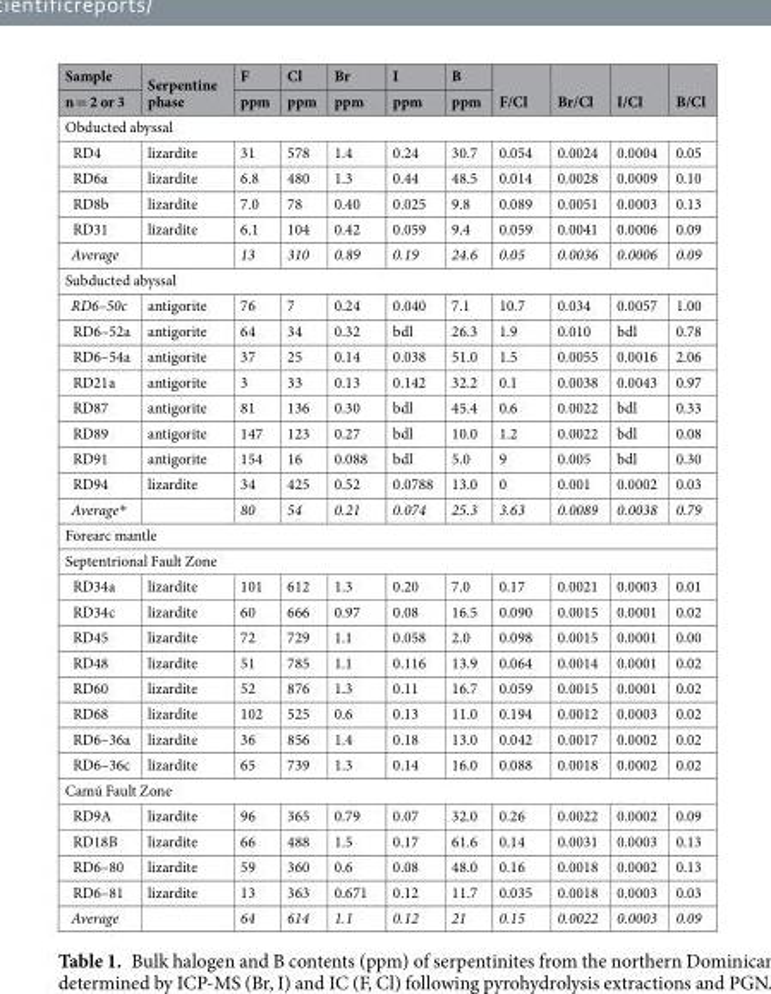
<table><thead><tr><td rowspan="2">Sample n = 2 or 3</td><td rowspan="2">Serpentine phase</td><td rowspan="2">F ppm</td><td rowspan="2">Cl ppm</td><td rowspan="2">Br ppm</td><td rowspan="2">I ppm</td><td rowspan="2">B ppm</td><td rowspan="2">F/Cl</td><td rowspan="2">Br/Cl</td><td rowspan="2">I/Cl</td><td rowspan="2">B/Cl</td></tr><tr></tr></thead><tbody><tr><td colspan="11">Obducted abyssal</td></tr><tr><td>RD4</td><td>lizardite</td><td>31</td><td>578</td><td>1.4</td><td>0.24</td><td>30.7</td><td>0.054</td><td>0.0024</td><td>0.0004</td><td>0.05</td></tr><tr><td>RD6a</td><td>lizardite</td><td>6.8</td><td>480</td><td>1.3</td><td>0.44</td><td>48.5</td><td>0.014</td><td>0.0028</td><td>0.0009</td><td>0.10</td></tr><tr><td>RD8b</td><td>lizardite</td><td>7.0</td><td>78</td><td>0.40</td><td>0.025</td><td>9.8</td><td>0.089</td><td>0.0051</td><td>0.0003</td><td>0.13</td></tr><tr><td>RD31</td><td>lizardite</td><td>6.1</td><td>104</td><td>0.42</td><td>0.059</td><td>9.4</td><td>0.059</td><td>0.0041</td><td>0.0006</td><td>0.09</td></tr><tr><td>Average</td><td></td><td>13</td><td>310</td><td>0.89</td><td>0.19</td><td>24.6</td><td>0.05</td><td>0.0036</td><td>0.0006</td><td>0.09</td></tr><tr><td colspan="11">Subducted abyssal</td></tr><tr><td>RD6–50c</td><td>antigorite</td><td>76</td><td>7</td><td>0.24</td><td>0.040</td><td>7.1</td><td>10.7</td><td>0.034</td><td>0.0057</td><td>1.00</td></tr><tr><td>RD6–52a</td><td>antigorite</td><td>64</td><td>34</td><td>0.32</td><td>bdl</td><td>26.3</td><td>1.9</td><td>0.010</td><td>bdl</td><td>0.78</td></tr><tr><td>RD6–54a</td><td>antigorite</td><td>37</td><td>25</td><td>0.14</td><td>0.038</td><td>51.0</td><td>1.5</td><td>0.0055</td><td>0.0016</td><td>2.06</td></tr><tr><td>RD21a</td><td>antigorite</td><td>3</td><td>33</td><td>0.13</td><td>0.142</td><td>32.2</td><td>0.1</td><td>0.0038</td><td>0.0043</td><td>0.97</td></tr><tr><td>RD87</td><td>antigorite</td><td>81</td><td>136</td><td>0.30</td><td>bdl</td><td>45.4</td><td>0.6</td><td>0.0022</td><td>bdl</td><td>0.33</td></tr><tr><td>RD89</td><td>antigorite</td><td>147</td><td>123</td><td>0.27</td><td>bdl</td><td>10.0</td><td>1.2</td><td>0.0022</td><td>bdl</td><td>0.08</td></tr><tr><td>RD91</td><td>antigorite</td><td>154</td><td>16</td><td>0.088</td><td>bdl</td><td>5.0</td><td>9</td><td>0.005</td><td>bdl</td><td>0.30</td></tr><tr><td>RD94</td><td>lizardite</td><td>34</td><td>425</td><td>0.52</td><td>0.0788</td><td>13.0</td><td>0</td><td>0.001</td><td>0.0002</td><td>0.03</td></tr><tr><td>Average*</td><td></td><td>80</td><td>54</td><td>0.21</td><td>0.074</td><td>25.3</td><td>3.63</td><td>0.0089</td><td>0.0038</td><td>0.79</td></tr><tr><td colspan="11">Forearc mantle</td></tr><tr><td colspan="11">Septentrional Fault Zone</td></tr><tr><td>RD34a</td><td>lizardite</td><td>101</td><td>612</td><td>1.3</td><td>0.20</td><td>7.0</td><td>0.17</td><td>0.0021</td><td>0.0003</td><td>0.01</td></tr><tr><td>RD34c</td><td>lizardite</td><td>60</td><td>666</td><td>0.97</td><td>0.08</td><td>16.5</td><td>0.090</td><td>0.0015</td><td>0.0001</td><td>0.02</td></tr><tr><td>RD45</td><td>lizardite</td><td>72</td><td>729</td><td>1.1</td><td>0.058</td><td>2.0</td><td>0.098</td><td>0.0015</td><td>0.0001</td><td>0.00</td></tr><tr><td>RD48</td><td>lizardite</td><td>51</td><td>785</td><td>1.1</td><td>0.116</td><td>13.9</td><td>0.064</td><td>0.0014</td><td>0.0001</td><td>0.02</td></tr><tr><td>RD60</td><td>lizardite</td><td>52</td><td>876</td><td>1.3</td><td>0.11</td><td>16.7</td><td>0.059</td><td>0.0015</td><td>0.0001</td><td>0.02</td></tr><tr><td>RD68</td><td>lizardite</td><td>102</td><td>525</td><td>0.6</td><td>0.13</td><td>11.0</td><td>0.194</td><td>0.0012</td><td>0.0003</td><td>0.02</td></tr><tr><td>RD6–36a</td><td>lizardite</td><td>36</td><td>856</td><td>1.4</td><td>0.18</td><td>13.0</td><td>0.042</td><td>0.0017</td><td>0.0002</td><td>0.02</td></tr><tr><td>RD6–36c</td><td>lizardite</td><td>65</td><td>739</td><td>1.3</td><td>0.14</td><td>16.0</td><td>0.088</td><td>0.0018</td><td>0.0002</td><td>0.02</td></tr><tr><td colspan="11">Camú Fault Zone</td></tr><tr><td>RD9A</td><td>lizardite</td><td>96</td><td>365</td><td>0.79</td><td>0.07</td><td>32.0</td><td>0.26</td><td>0.0022</td><td>0.0002</td><td>0.09</td></tr><tr><td>RD18B</td><td>lizardite</td><td>66</td><td>488</td><td>1.5</td><td>0.17</td><td>61.6</td><td>0.14</td><td>0.0031</td><td>0.0003</td><td>0.13</td></tr><tr><td>RD6–80</td><td>lizardite</td><td>59</td><td>360</td><td>0.6</td><td>0.08</td><td>48.0</td><td>0.16</td><td>0.0018</td><td>0.0002</td><td>0.13</td></tr><tr><td>RD6–81</td><td>lizardite</td><td>13</td><td>363</td><td>0.671</td><td>0.12</td><td>11.7</td><td>0.035</td><td>0.0018</td><td>0.0003</td><td>0.03</td></tr><tr><td>Average</td><td></td><td>64</td><td>614</td><td>1.1</td><td>0.12</td><td>21</td><td>0.15</td><td>0.0022</td><td>0.0003</td><td>0.09</td></tr></tbody></table>